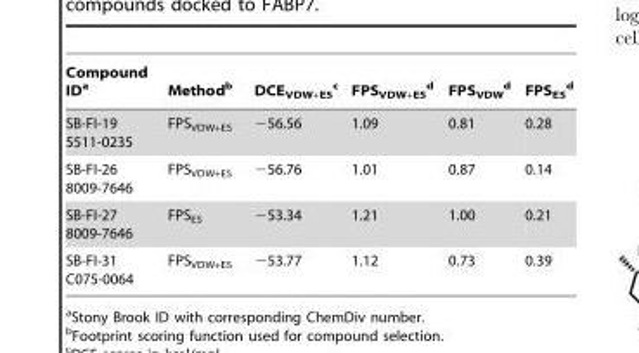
<table><thead><tr><td>Compound ID<sup>a</sup></td><td>Method<sup>b</sup></td><td>DCE<sub>VDW+ES</sub> c</td><td>FPS<sub>VDW+ES</sub> d</td><td>FPS<sub>VDW</sub> d</td><td>FPS<sub>ES</sub> d</td></tr></thead><tbody><tr><td>SB-FI-19 5511-0235</td><td>FPS<sub>VDW+ES</sub></td><td>−56.56</td><td>1.09</td><td>0.81</td><td>0.28</td></tr><tr><td>SB-FI-26 8009-7646</td><td>FPS<sub>VDW+ES</sub></td><td>−56.76</td><td>1.01</td><td>0.87</td><td>0.14</td></tr><tr><td>SB-FI-27 8009-7646</td><td>FPS<sub>ES</sub></td><td>−53.34</td><td>1.21</td><td>1.00</td><td>0.21</td></tr><tr><td>SB-FI-31 C075-0064</td><td>FPS<sub>VDW+ES</sub></td><td>−53.77</td><td>1.12</td><td>0.73</td><td>0.39</td></tr></tbody></table>